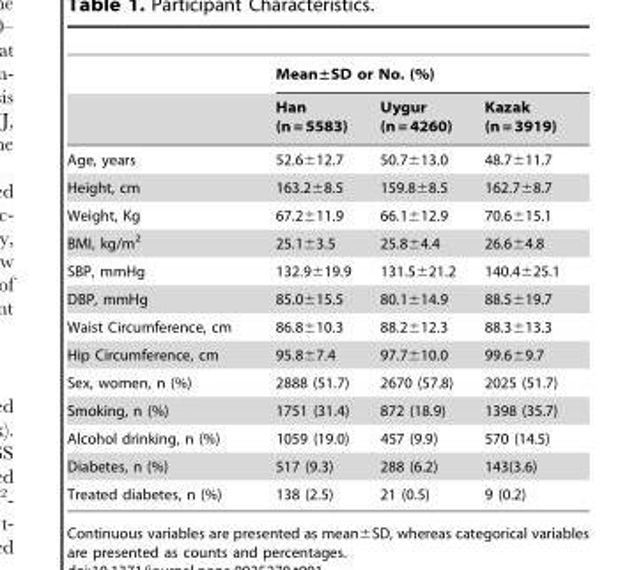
<table><thead><tr><td rowspan="2"></td><td colspan="3">Mean±SD or No. (%)</td></tr><tr><td>Han (n = 5583)</td><td>Uygur (n = 4260)</td><td>Kazak (n = 3919)</td></tr></thead><tbody><tr><td>Age, years</td><td>52.6±12.7</td><td>50.7±13.0</td><td>48.7±11.7</td></tr><tr><td>Height, cm</td><td>163.2±8.5</td><td>159.8±8.5</td><td>162.7±8.7</td></tr><tr><td>Weight, Kg</td><td>67.2±11.9</td><td>66.1±12.9</td><td>70.6±15.1</td></tr><tr><td>BMI, kg/m<sup>2</sup></td><td>25.1±3.5</td><td>25.8±4.4</td><td>26.6±4.8</td></tr><tr><td>SBP, mmHg</td><td>132.9±19.9</td><td>131.5±21.2</td><td>140.4±25.1</td></tr><tr><td>DBP, mmHg</td><td>85.0±15.5</td><td>80.1±14.9</td><td>88.5±19.7</td></tr><tr><td>Waist Circumference, cm</td><td>86.8±10.3</td><td>88.2±12.3</td><td>88.3±13.3</td></tr><tr><td>Hip Circumference, cm</td><td>95.8±7.4</td><td>97.7±10.0</td><td>99.6±9.7</td></tr><tr><td>Sex, women, n (%)</td><td>2888 (51.7)</td><td>2670 (57.8)</td><td>2025 (51.7)</td></tr><tr><td>Smoking, n (%)</td><td>1751 (31.4)</td><td>872 (18.9)</td><td>1398 (35.7)</td></tr><tr><td>Alcohol drinking, n (%)</td><td>1059 (19.0)</td><td>457 (9.9)</td><td>570 (14.5)</td></tr><tr><td>Diabetes, n (%)</td><td>517 (9.3)</td><td>288 (6.2)</td><td>143(3.6)</td></tr><tr><td>Treated diabetes, n (%)</td><td>138 (2.5)</td><td>21 (0.5)</td><td>9 (0.2)</td></tr></tbody></table>